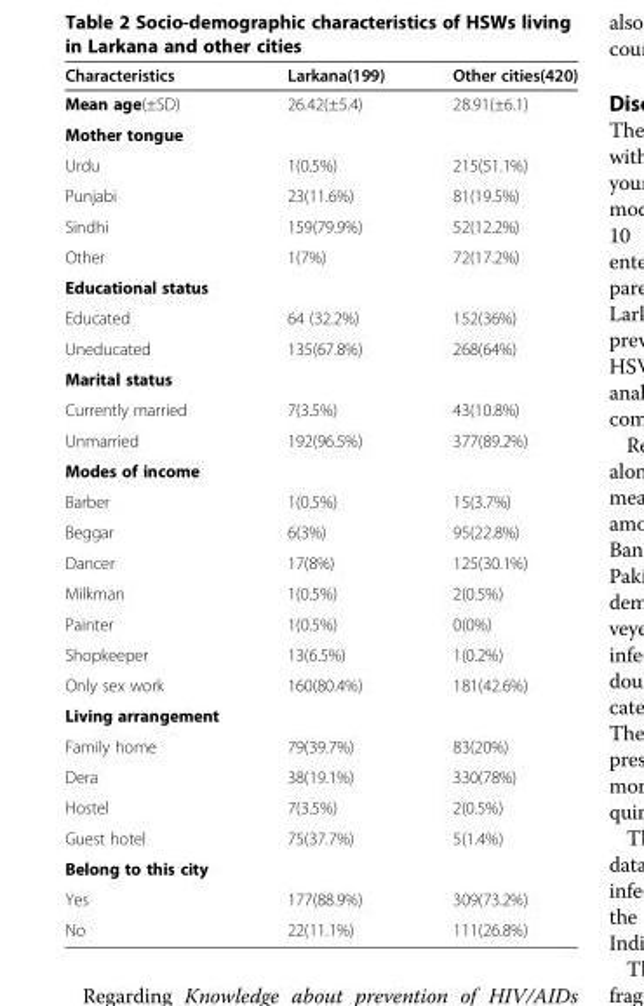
<table><thead><tr><td>Characteristics</td><td>Larkana(199)</td><td>Other cities(420)</td></tr></thead><tbody><tr><td>Mean age(±SD)</td><td>26.42(±5.4)</td><td>28.91(±6.1)</td></tr><tr><td colspan="3">Mother tongue</td></tr><tr><td>Urdu</td><td>1(0.5%)</td><td>215(51.1%)</td></tr><tr><td>Punjabi</td><td>23(11.6%)</td><td>81(19.5%)</td></tr><tr><td>Sindhi</td><td>159(79.9%)</td><td>52(12.2%)</td></tr><tr><td>Other</td><td>1(7%)</td><td>72(17.2%)</td></tr><tr><td colspan="3">Educational status</td></tr><tr><td>Educated</td><td>64 (32.2%)</td><td>152(36%)</td></tr><tr><td>Uneducated</td><td>135(67.8%)</td><td>268(64%)</td></tr><tr><td colspan="3">Marital status</td></tr><tr><td>Currently married</td><td>7(3.5%)</td><td>43(10.8%)</td></tr><tr><td>Unmarried</td><td>192(96.5%)</td><td>377(89.2%)</td></tr><tr><td colspan="3">Modes of income</td></tr><tr><td>Barber</td><td>1(0.5%)</td><td>15(3.7%)</td></tr><tr><td>Beggar</td><td>6(3%)</td><td>95(22.8%)</td></tr><tr><td>Dancer</td><td>17(8%)</td><td>125(30.1%)</td></tr><tr><td>Milkman</td><td>1(0.5%)</td><td>2(0.5%)</td></tr><tr><td>Painter</td><td>1(0.5%)</td><td>0(0%)</td></tr><tr><td>Shopkeeper</td><td>13(6.5%)</td><td>1(0.2%)</td></tr><tr><td>Only sex work</td><td>160(80.4%)</td><td>181(42.6%)</td></tr><tr><td colspan="3">Living arrangement</td></tr><tr><td>Family home</td><td>79(39.7%)</td><td>83(20%)</td></tr><tr><td>Dera</td><td>38(19.1%)</td><td>330(78%)</td></tr><tr><td>Hostel</td><td>7(3.5%)</td><td>2(0.5%)</td></tr><tr><td>Guest hotel</td><td>75(37.7%)</td><td>5(1.4%)</td></tr><tr><td colspan="3">Belong to this city</td></tr><tr><td>Yes</td><td>177(88.9%)</td><td>309(73.2%)</td></tr><tr><td>No</td><td>22(11.1%)</td><td>111(26.8%)</td></tr></tbody></table>